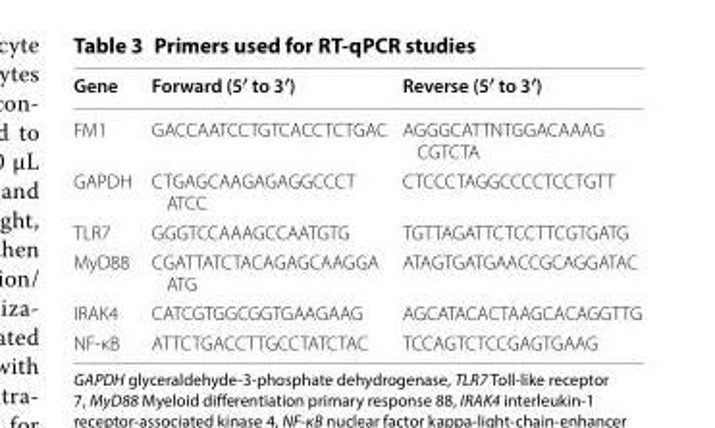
<table><thead><tr><td>Gene</td><td>Forward (5′ to 3′)</td><td>Reverse (5′ to 3′)</td></tr></thead><tbody><tr><td>FM1</td><td>GAC CAA TCC TGT CAC CTC TGAC</td><td>AGG GCA TTNTGG ACA AAG CGT CTA</td></tr><tr><td>GAPDH</td><td>CTG AGC AAG AGA GGC CCT ATCC</td><td>CTC CCT AGG CCC CTC CTG TT</td></tr><tr><td>TLR7</td><td>GGG TCC AAA GCC AAT GTG</td><td>TGT TAG ATT CTC CTT CGT GATG</td></tr><tr><td>MyD88</td><td>CGA TTA TCT ACA GAG CAA GGA ATG</td><td>ATA GTG ATG AAC CGC AGG ATAC</td></tr><tr><td>IRAK4</td><td>CAT CGT GGC GGT GAA GAA G</td><td>AGC ATA CAC TAA GCA CAG GTTG</td></tr><tr><td>NF‑κB</td><td>ATT CTG ACC TTG CCT ATC TAC</td><td>TCC AGT CTC CGA GTG AAG</td></tr></tbody></table>